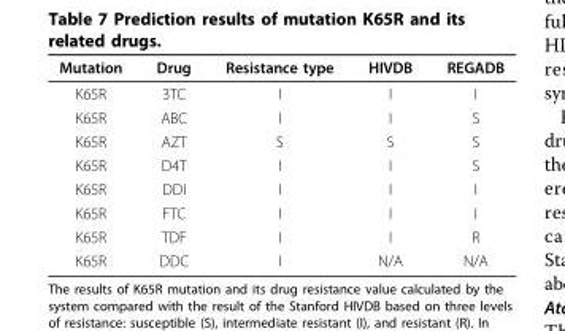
<table><thead><tr><td>Mutation</td><td>Drug</td><td>Resistance type</td><td>HIVDB</td><td>REGADB</td></tr></thead><tbody><tr><td>K65R</td><td>3TC</td><td>I</td><td>I</td><td>I</td></tr><tr><td>K65R</td><td>ABC</td><td>I</td><td>I</td><td>S</td></tr><tr><td>K65R</td><td>AZT</td><td>S</td><td>S</td><td>S</td></tr><tr><td>K65R</td><td>D4T</td><td>I</td><td>I</td><td>S</td></tr><tr><td>K65R</td><td>DDI</td><td>I</td><td>I</td><td>I</td></tr><tr><td>K65R</td><td>FTC</td><td>I</td><td>I</td><td>I</td></tr><tr><td>K65R</td><td>TDF</td><td>I</td><td>I</td><td>R</td></tr><tr><td>K65R</td><td>DDC</td><td>I</td><td>N/A</td><td>N/A</td></tr></tbody></table>